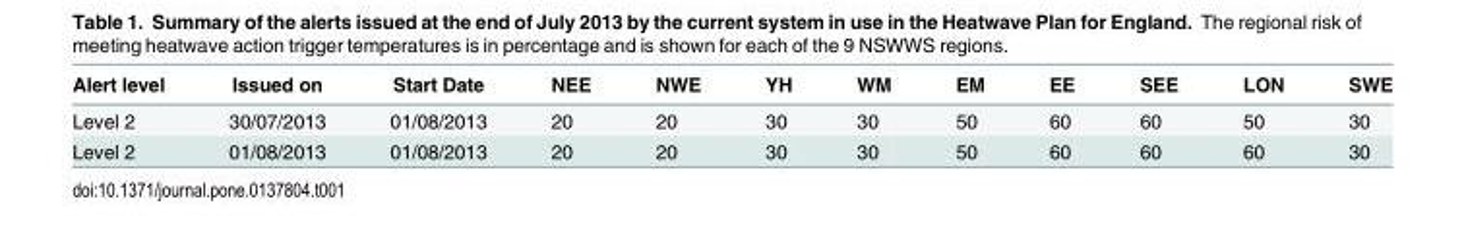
<table><thead><tr><td>Alert level</td><td>Issued on</td><td>Start Date</td><td>NEE</td><td>NWE</td><td>YH</td><td>WM</td><td>EM</td><td>EE</td><td>SEE</td><td>LON</td><td>SWE</td></tr></thead><tbody><tr><td>Level 2</td><td>30/07/2013</td><td>01/08/2013</td><td>20</td><td>20</td><td>30</td><td>30</td><td>50</td><td>60</td><td>60</td><td>50</td><td>30</td></tr><tr><td>Level 2</td><td>01/08/2013</td><td>01/08/2013</td><td>20</td><td>20</td><td>30</td><td>30</td><td>50</td><td>60</td><td>60</td><td>60</td><td>30</td></tr></tbody></table>